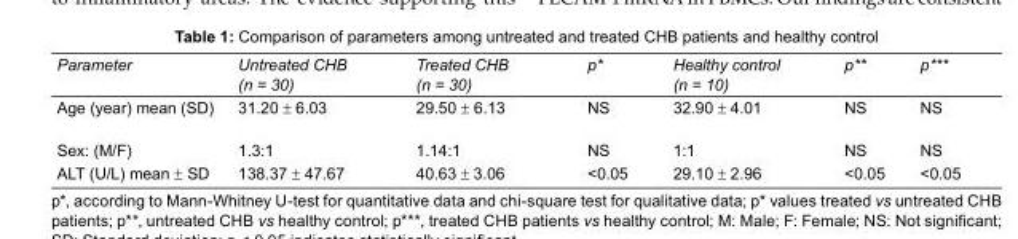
<table><tbody><tr><td>Parameter</td><td>Untreated CHB (n = 30)</td><td>Treated CHB (n = 30)</td><td>p*</td><td>Healthy control (n = 10)</td><td>p**</td><td>p***</td></tr><tr><td>Age (year) mean (SD)</td><td>31.20 ±6.03</td><td>29.50 ± 6.13</td><td>NS</td><td>32.90 ±4.01</td><td>NS</td><td>NS</td></tr><tr><td>Sex: (M/F)</td><td>1.3:1</td><td>1.14:1</td><td>NS</td><td>1:1</td><td>NS</td><td>NS</td></tr><tr><td>ALT (U/L) mean ± SD</td><td>138.37 ±47.67</td><td>40.63 ±3.06</td><td>&lt;0.05</td><td>29.10 ±2.96</td><td>&lt;0.05</td><td>&lt;0.05</td></tr></tbody></table>